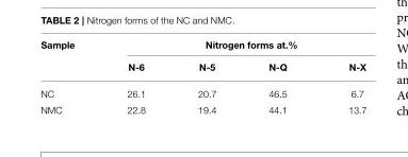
<table><thead><tr><td rowspan="2">Sample</td><td colspan="4">Nitrogen forms at.%</td></tr><tr><td>N-6</td><td>N-5</td><td>N-Q</td><td>N-X</td></tr></thead><tbody><tr><td>NC</td><td>26.1</td><td>20.7</td><td>46.5</td><td>6.7</td></tr><tr><td>NMC</td><td>22.8</td><td>19.4</td><td>44.1</td><td>13.7</td></tr></tbody></table>